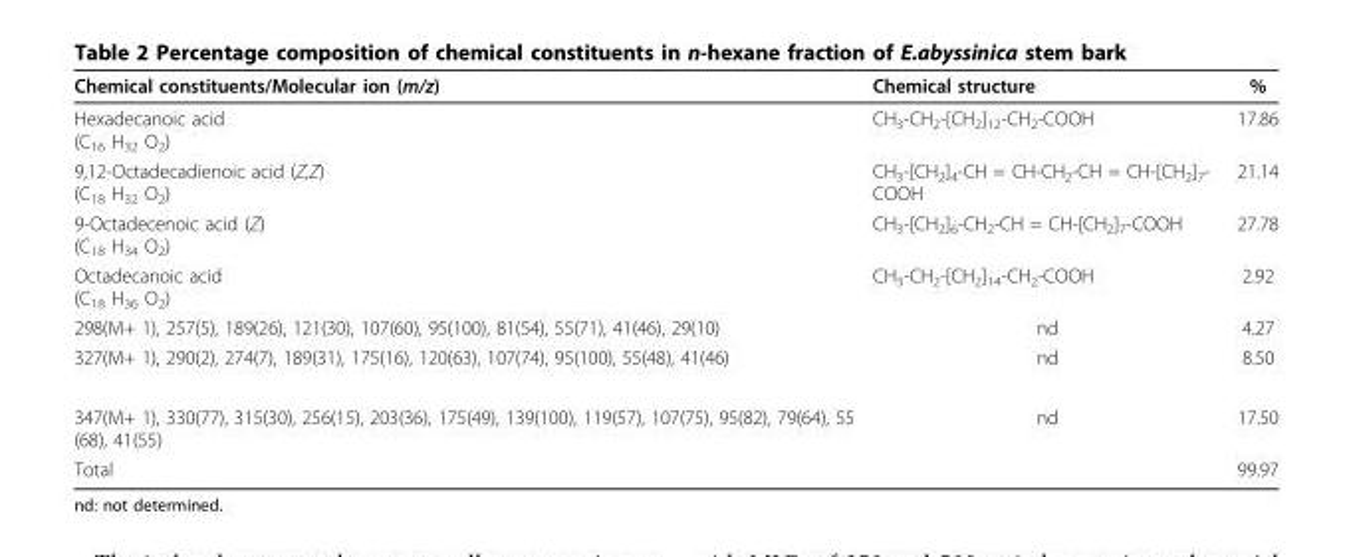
<table><thead><tr><td>Chemical constituents/Molecular ion (m/z)</td><td>Chemical structure</td><td>%</td></tr></thead><tbody><tr><td>Hexadecanoic acid (C<sub>16</sub> H<sub>32</sub> O<sub>2</sub>)</td><td>CH<sub>3</sub>-CH<sub>2</sub>-[CH<sub>2</sub>]<sub>12</sub>-CH<sub>2</sub>-COOH</td><td>17.86</td></tr><tr><td>9,12-Octadecadienoic acid (Z,Z) (C<sub>18</sub> H<sub>32</sub> O<sub>2</sub>)</td><td>CH<sub>3</sub>-[CH<sub>2</sub>]<sub>4</sub>-CH = CH-CH<sub>2</sub>-CH = CH-[CH<sub>2</sub>]<sub>7</sub>- COOH</td><td>21.14</td></tr><tr><td>9-Octadecenoic acid (Z) (C<sub>18</sub> H<sub>34</sub> O<sub>2</sub>)</td><td>CH<sub>3</sub>-[CH<sub>2</sub>]<sub>6</sub>-CH<sub>2</sub>-CH = CH-[CH<sub>2</sub>]<sub>7</sub>-COOH</td><td>27.78</td></tr><tr><td>Octadecanoic acid (C<sub>18</sub> H<sub>36</sub> O<sub>2</sub>)</td><td>CH<sub>3</sub>-CH<sub>2</sub>-[CH<sub>2</sub>]<sub>14</sub>-CH<sub>2</sub>-COOH</td><td>2.92</td></tr><tr><td>298(M+ 1), 257(5), 189(26), 121(30), 107(60), 95(100), 81(54), 55(71), 41(46), 29(10)</td><td>nd</td><td>4.27</td></tr><tr><td>327(M+ 1), 290(2), 274(7), 189(31), 175(16), 120(63), 107(74), 95(100), 55(48), 41(46)</td><td>nd</td><td>8.50</td></tr><tr><td>347(M+ 1), 330(77), 315(30), 256(15), 203(36), 175(49), 139(100), 119(57), 107(75), 95(82), 79(64), 55 (68), 41(55)</td><td>nd</td><td>17.50</td></tr><tr><td>Total</td><td></td><td>99.97</td></tr></tbody></table>